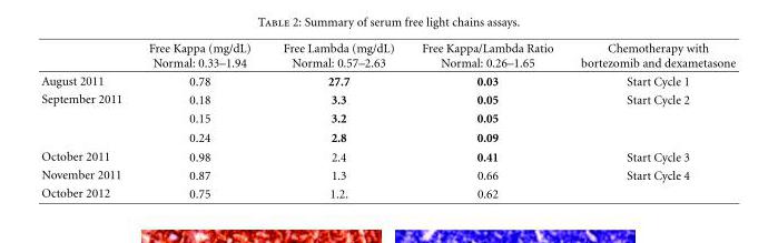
<table><thead><tr><td></td><td>Free Kappa (mg/dL) Normal: 0.33–1.94</td><td>Free Lambda (mg/dL) Normal: 0.57–2.63</td><td>Free Kappa/Lambda Ratio Normal: 0.26–1.65</td><td>Chemotherapy with bortezomib and dexametasone</td></tr></thead><tbody><tr><td>August 2011</td><td>0.78</td><td>27.7</td><td>0.03</td><td>Start Cycle 1</td></tr><tr><td rowspan="3">September 2011</td><td>0.18</td><td>3.3</td><td>0.05</td><td>Start Cycle 2</td></tr><tr><td>0.15</td><td>3.2</td><td>0.05</td><td></td></tr><tr><td>0.24</td><td>2.8</td><td>0.09</td><td></td></tr><tr><td>October 2011</td><td>0.98</td><td>2.4</td><td>0.41</td><td>Start Cycle 3</td></tr><tr><td>November 2011</td><td>0.87</td><td>1.3</td><td>0.66</td><td>Start Cycle 4</td></tr><tr><td>October 2012</td><td>0.75</td><td>1.2.</td><td>0.62</td><td></td></tr></tbody></table>